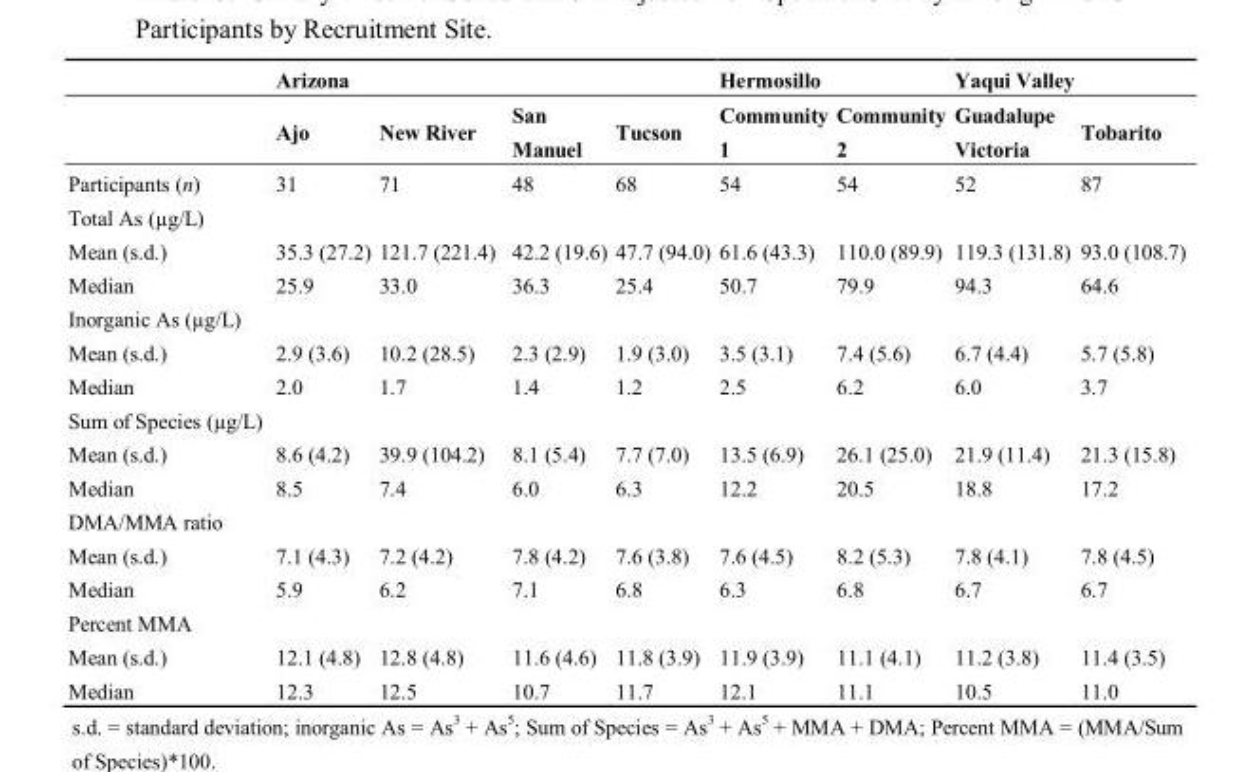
<table><thead><tr><td rowspan="2"></td><td colspan="4">Arizona</td><td colspan="2">Hermosillo</td><td colspan="2">Yaqui Valley</td></tr><tr><td>Ajo</td><td>New River</td><td>San Manuel</td><td>Tucson</td><td>Community 1</td><td>Community 2</td><td>Guadalupe Victoria</td><td>Tobarito</td></tr></thead><tbody><tr><td>Participants (n)</td><td>31</td><td>71</td><td>48</td><td>68</td><td>54</td><td>54</td><td>52</td><td>87</td></tr><tr><td colspan="9">Total As (µg/L)</td></tr><tr><td>Mean (s.d.)</td><td>35.3 (27.2)</td><td>121.7 (221.4)</td><td>42.2 (19.6)</td><td>47.7 (94.0)</td><td>61.6 (43.3)</td><td>110.0 (89.9)</td><td>119.3 (131.8)</td><td>93.0 (108.7)</td></tr><tr><td>Median</td><td>25.9</td><td>33.0</td><td>36.3</td><td>25.4</td><td>50.7</td><td>79.9</td><td>94.3</td><td>64.6</td></tr><tr><td colspan="9">Inorganic As (µg/L)</td></tr><tr><td>Mean (s.d.)</td><td>2.9 (3.6)</td><td>10.2 (28.5)</td><td>2.3 (2.9)</td><td>1.9 (3.0)</td><td>3.5 (3.1)</td><td>7.4 (5.6)</td><td>6.7 (4.4)</td><td>5.7 (5.8)</td></tr><tr><td>Median</td><td>2.0</td><td>1.7</td><td>1.4</td><td>1.2</td><td>2.5</td><td>6.2</td><td>6.0</td><td>3.7</td></tr><tr><td colspan="9">Sum of Species (µg/L)</td></tr><tr><td>Mean (s.d.)</td><td>8.6 (4.2)</td><td>39.9 (104.2)</td><td>8.1 (5.4)</td><td>7.7 (7.0)</td><td>13.5 (6.9)</td><td>26.1 (25.0)</td><td>21.9 (11.4)</td><td>21.3 (15.8)</td></tr><tr><td>Median</td><td>8.5</td><td>7.4</td><td>6.0</td><td>6.3</td><td>12.2</td><td>20.5</td><td>18.8</td><td>17.2</td></tr><tr><td colspan="9">DMA/MMA ratio</td></tr><tr><td>Mean (s.d.)</td><td>7.1 (4.3)</td><td>7.2 (4.2)</td><td>7.8 (4.2)</td><td>7.6 (3.8)</td><td>7.6 (4.5)</td><td>8.2 (5.3)</td><td>7.8 (4.1)</td><td>7.8 (4.5)</td></tr><tr><td>Median</td><td>5.9</td><td>6.2</td><td>7.1</td><td>6.8</td><td>6.3</td><td>6.8</td><td>6.7</td><td>6.7</td></tr><tr><td colspan="9">Percent MMA</td></tr><tr><td>Mean (s.d.)</td><td>12.1 (4.8)</td><td>12.8 (4.8)</td><td>11.6 (4.6)</td><td>11.8 (3.9)</td><td>11.9 (3.9)</td><td>11.1 (4.1)</td><td>11.2 (3.8)</td><td>11.4 (3.5)</td></tr><tr><td>Median</td><td>12.3</td><td>12.5</td><td>10.7</td><td>11.7</td><td>12.1</td><td>11.1</td><td>10.5</td><td>11.0</td></tr></tbody></table>